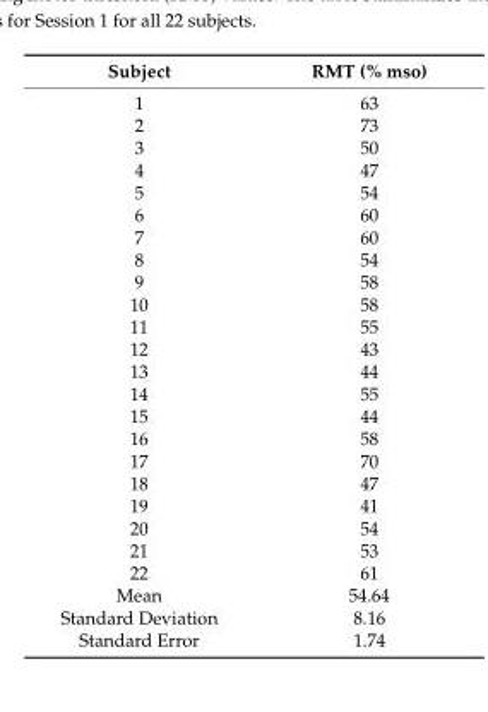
<table><thead><tr><td>Subject</td><td>RMT (% mso)</td></tr></thead><tbody><tr><td>1</td><td>63</td></tr><tr><td>2</td><td>73</td></tr><tr><td>3</td><td>50</td></tr><tr><td>4</td><td>47</td></tr><tr><td>5</td><td>54</td></tr><tr><td>6</td><td>60</td></tr><tr><td>7</td><td>60</td></tr><tr><td>8</td><td>54</td></tr><tr><td>9</td><td>58</td></tr><tr><td>10</td><td>58</td></tr><tr><td>11</td><td>55</td></tr><tr><td>12</td><td>43</td></tr><tr><td>13</td><td>44</td></tr><tr><td>14</td><td>55</td></tr><tr><td>15</td><td>44</td></tr><tr><td>16</td><td>58</td></tr><tr><td>17</td><td>70</td></tr><tr><td>18</td><td>47</td></tr><tr><td>19</td><td>41</td></tr><tr><td>20</td><td>54</td></tr><tr><td>21</td><td>53</td></tr><tr><td>22</td><td>61</td></tr><tr><td>Mean</td><td>54.64</td></tr><tr><td>Standard Deviation</td><td>8.16</td></tr><tr><td>Standard Error</td><td>1.74</td></tr></tbody></table>